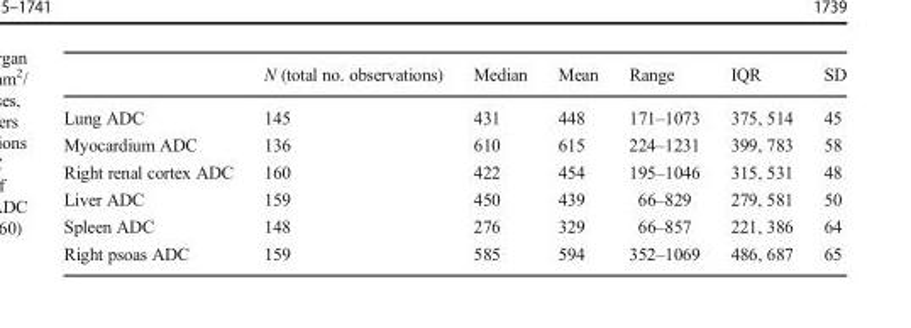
<table><thead><tr><td></td><td>N (total no. observations)</td><td>Median</td><td>Mean</td><td>Range</td><td>IQR</td><td>SD</td></tr></thead><tbody><tr><td>Lung ADC</td><td>145</td><td>431</td><td>448</td><td>171–1073</td><td>375, 514</td><td>45</td></tr><tr><td>Myocardium ADC</td><td>136</td><td>610</td><td>615</td><td>224–1231</td><td>399, 783</td><td>58</td></tr><tr><td>Right renal cortex ADC</td><td>160</td><td>422</td><td>454</td><td>195–1046</td><td>315, 531</td><td>48</td></tr><tr><td>Liver ADC</td><td>159</td><td>450</td><td>439</td><td>66–829</td><td>279, 581</td><td>50</td></tr><tr><td>Spleen ADC</td><td>148</td><td>276</td><td>329</td><td>66–857</td><td>221, 386</td><td>64</td></tr><tr><td>Right psoas ADC</td><td>159</td><td>585</td><td>594</td><td>352–1069</td><td>486, 687</td><td>65</td></tr></tbody></table>